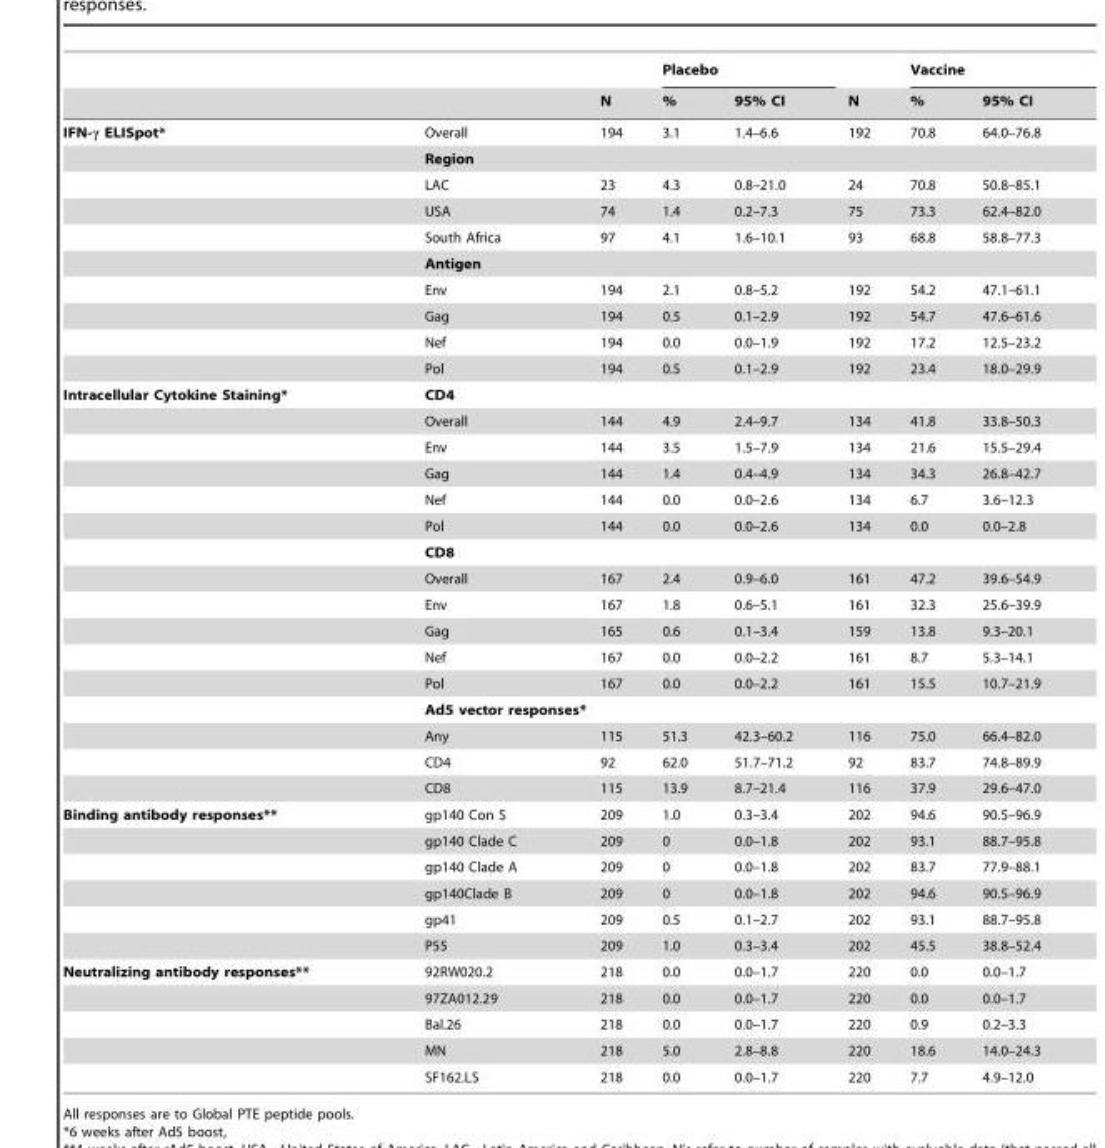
<table><thead><tr><td rowspan="2"></td><td rowspan="2"></td><td rowspan="2">N</td><td colspan="2">Placebo</td><td rowspan="2">N</td><td colspan="2">Vaccine</td></tr><tr><td>%</td><td>95% CI</td><td>%</td><td>95% CI</td></tr></thead><tbody><tr><td rowspan="10">IFN-γ ELISpot*</td><td>Overall</td><td>194</td><td>3.1</td><td>1.4–6.6</td><td>192</td><td>70.8</td><td>64.0–76.8</td></tr><tr><td colspan="7">Region</td></tr><tr><td>LAC</td><td>23</td><td>4.3</td><td>0.8–21.0</td><td>24</td><td>70.8</td><td>50.8–85.1</td></tr><tr><td>USA</td><td>74</td><td>1.4</td><td>0.2–7.3</td><td>75</td><td>73.3</td><td>62.4–82.0</td></tr><tr><td>South Africa</td><td>97</td><td>4.1</td><td>1.6–10.1</td><td>93</td><td>68.8</td><td>58.8–77.3</td></tr><tr><td colspan="7">Antigen</td></tr><tr><td>Env</td><td>194</td><td>2.1</td><td>0.8–5.2</td><td>192</td><td>54.2</td><td>47.1–61.1</td></tr><tr><td>Gag</td><td>194</td><td>0.5</td><td>0.1–2.9</td><td>192</td><td>54.7</td><td>47.6–61.6</td></tr><tr><td>Nef</td><td>194</td><td>0.0</td><td>0.0–1.9</td><td>192</td><td>17.2</td><td>12.5–23.2</td></tr><tr><td>Pol</td><td>194</td><td>0.5</td><td>0.1–2.9</td><td>192</td><td>23.4</td><td>18.0–29.9</td></tr><tr><td rowspan="16">Intracellular Cytokine Staining*</td><td colspan="7">CD4</td></tr><tr><td>Overall</td><td>144</td><td>4.9</td><td>2.4–9.7</td><td>134</td><td>41.8</td><td>33.8–50.3</td></tr><tr><td>Env</td><td>144</td><td>3.5</td><td>1.5–7.9</td><td>134</td><td>21.6</td><td>15.5–29.4</td></tr><tr><td>Gag</td><td>144</td><td>1.4</td><td>0.4–4.9</td><td>134</td><td>34.3</td><td>26.8–42.7</td></tr><tr><td>Nef</td><td>144</td><td>0.0</td><td>0.0–2.6</td><td>134</td><td>6.7</td><td>3.6–12.3</td></tr><tr><td>Pol</td><td>144</td><td>0.0</td><td>0.0–2.6</td><td>134</td><td>0.0</td><td>0.0–2.8</td></tr><tr><td colspan="7">CD8</td></tr><tr><td>Overall</td><td>167</td><td>2.4</td><td>0.9–6.0</td><td>161</td><td>47.2</td><td>39.6–54.9</td></tr><tr><td>Env</td><td>167</td><td>1.8</td><td>0.6–5.1</td><td>161</td><td>32.3</td><td>25.6–39.9</td></tr><tr><td>Gag</td><td>165</td><td>0.6</td><td>0.1–3.4</td><td>159</td><td>13.8</td><td>9.3–20.1</td></tr><tr><td>Nef</td><td>167</td><td>0.0</td><td>0.0–2.2</td><td>161</td><td>8.7</td><td>5.3–14.1</td></tr><tr><td>Pol</td><td>167</td><td>0.0</td><td>0.0–2.2</td><td>161</td><td>15.5</td><td>10.7–21.9</td></tr><tr><td colspan="7">Ad5 vector responses*</td></tr><tr><td>Any</td><td>115</td><td>51.3</td><td>42.3–60.2</td><td>116</td><td>75.0</td><td>66.4–82.0</td></tr><tr><td>CD4</td><td>92</td><td>62.0</td><td>51.7–71.2</td><td>92</td><td>83.7</td><td>74.8–89.9</td></tr><tr><td>CD8</td><td>115</td><td>13.9</td><td>8.7–21.4</td><td>116</td><td>37.9</td><td>29.6–47.0</td></tr><tr><td rowspan="6">Binding antibody responses**</td><td>gp140 Con S</td><td>209</td><td>1.0</td><td>0.3–3.4</td><td>202</td><td>94.6</td><td>90.5–96.9</td></tr><tr><td>gp140 Clade C</td><td>209</td><td>0</td><td>0.0–1.8</td><td>202</td><td>93.1</td><td>88.7–95.8</td></tr><tr><td>gp140 Clade A</td><td>209</td><td>0</td><td>0.0–1.8</td><td>202</td><td>83.7</td><td>77.9–88.1</td></tr><tr><td>gp140Clade B</td><td>209</td><td>0</td><td>0.0–1.8</td><td>202</td><td>94.6</td><td>90.5–96.9</td></tr><tr><td>gp41</td><td>209</td><td>0.5</td><td>0.1–2.7</td><td>202</td><td>93.1</td><td>88.7–95.8</td></tr><tr><td>P55</td><td>209</td><td>1.0</td><td>0.3–3.4</td><td>202</td><td>45.5</td><td>38.8–52.4</td></tr><tr><td rowspan="5">Neutralizing antibody responses**</td><td>92RW020.2</td><td>218</td><td>0.0</td><td>0.0–1.7</td><td>220</td><td>0.0</td><td>0.0–1.7</td></tr><tr><td>97ZA012.29</td><td>218</td><td>0.0</td><td>0.0–1.7</td><td>220</td><td>0.0</td><td>0.0–1.7</td></tr><tr><td>Bal.26</td><td>218</td><td>0.0</td><td>0.0–1.7</td><td>220</td><td>0.9</td><td>0.2–3.3</td></tr><tr><td>MN</td><td>218</td><td>5.0</td><td>2.8–8.8</td><td>220</td><td>18.6</td><td>14.0–24.3</td></tr><tr><td>SF162.LS</td><td>218</td><td>0.0</td><td>0.0–1.7</td><td>220</td><td>7.7</td><td>4.9–12.0</td></tr></tbody></table>